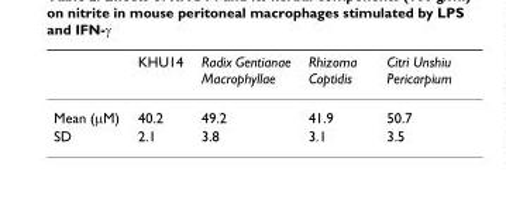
<table><thead><tr><td></td><td>KHU14</td><td>Radix Gentianae Macrophyllae</td><td>Rhizoma Coptidis</td><td>Citri Unshiu Pericarpium</td></tr></thead><tbody><tr><td>Mean (μM)</td><td>40.2</td><td>49.2</td><td>41.9</td><td>50.7</td></tr><tr><td>SD</td><td>2.1</td><td>3.8</td><td>3.1</td><td>3.5</td></tr></tbody></table>